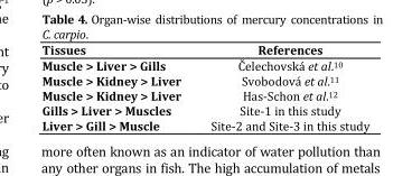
<table><thead><tr><td>Tissues</td><td>References</td></tr></thead><tbody><tr><td>Muscle &gt; Liver &gt; Gills</td><td>Čelechovská et al.<sup>10</sup></td></tr><tr><td>Muscle &gt; Kidney &gt; Liver</td><td>Svobodová et al.<sup>11</sup></td></tr><tr><td>Muscle &gt; Kidney &gt; Liver</td><td>Has-Schon et al.<sup>12</sup></td></tr><tr><td>Gills &gt; Liver &gt; Muscles</td><td>Site-1 in this study</td></tr><tr><td>Liver &gt; Gill &gt; Muscle</td><td>Site-2 and Site-3 in this study</td></tr></tbody></table>